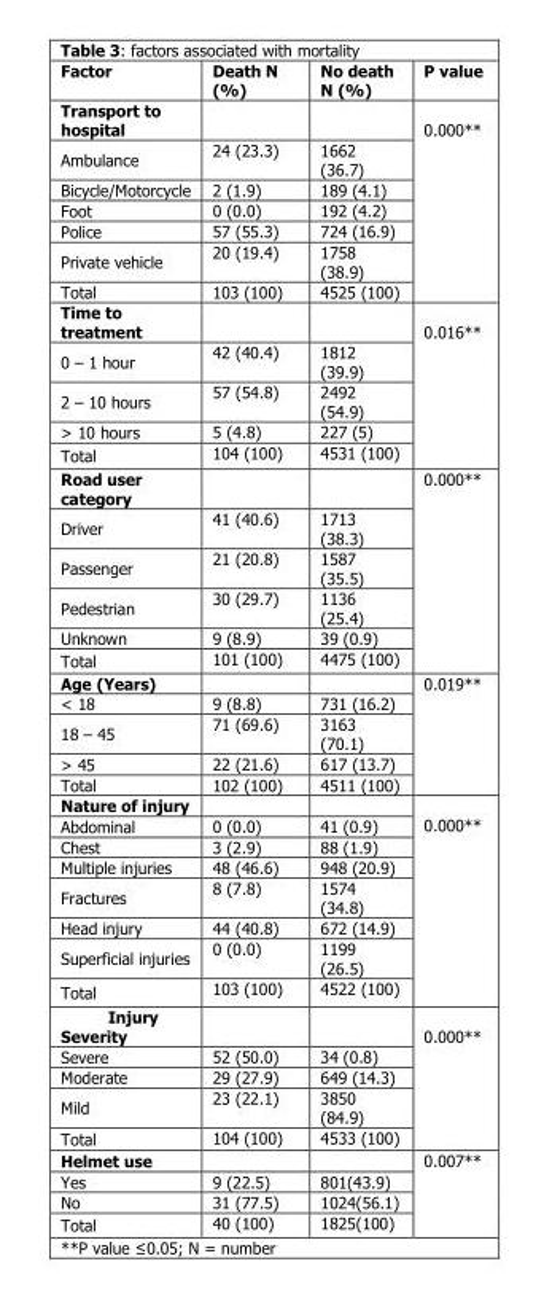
<table><thead><tr><td>Factor</td><td>Death N (%)</td><td>No death N (%)</td><td>P value</td></tr></thead><tbody><tr><td colspan="3">Transport to hospital</td><td rowspan="7">0.000**</td></tr><tr><td>Ambulance</td><td>24 (23.3)</td><td>1662 (36.7)</td></tr><tr><td>Bicycle/Motorcycle</td><td>2 (1.9)</td><td>189 (4.1)</td></tr><tr><td>Foot</td><td>0 (0.0)</td><td>192 (4.2)</td></tr><tr><td>Police</td><td>57 (55.3)</td><td>724 (16.9)</td></tr><tr><td>Private vehicle</td><td>20 (19.4)</td><td>1758 (38.9)</td></tr><tr><td>Total</td><td>103 (100)</td><td>4525 (100)</td></tr><tr><td colspan="3">Time to treatment</td><td rowspan="5">0.016**</td></tr><tr><td>0 – 1 hour</td><td>42 (40.4)</td><td>1812 (39.9)</td></tr><tr><td>2 – 10 hours</td><td>57 (54.8)</td><td>2492 (54.9)</td></tr><tr><td>&gt; 10 hours</td><td>5 (4.8)</td><td>227 (5)</td></tr><tr><td>Total</td><td>104 (100)</td><td>4531 (100)</td></tr><tr><td colspan="3">Road user category</td><td rowspan="6">0.000**</td></tr><tr><td>Driver</td><td>41 (40.6)</td><td>1713 (38.3)</td></tr><tr><td>Passenger</td><td>21 (20.8)</td><td>1587 (35.5)</td></tr><tr><td>Pedestrian</td><td>30 (29.7)</td><td>1136 (25.4)</td></tr><tr><td>Unknown</td><td>9 (8.9)</td><td>39 (0.9)</td></tr><tr><td>Total</td><td>101 (100)</td><td>4475 (100)</td></tr><tr><td colspan="3">Age (Years)</td><td rowspan="5">0.019**</td></tr><tr><td>&lt; 18</td><td>9 (8.8)</td><td>731 (16.2)</td></tr><tr><td>18 – 45</td><td>71 (69.6)</td><td>3163 (70.1)</td></tr><tr><td>&gt; 45</td><td>22 (21.6)</td><td>617 (13.7)</td></tr><tr><td>Total</td><td>102 (100)</td><td>4511 (100)</td></tr><tr><td colspan="3">Nature of injury</td><td rowspan="8">0.000**</td></tr><tr><td>Abdominal</td><td>0 (0.0)</td><td>41 (0.9)</td></tr><tr><td>Chest</td><td>3 (2.9)</td><td>88 (1.9)</td></tr><tr><td>Multiple injuries</td><td>48 (46.6)</td><td>948 (20.9)</td></tr><tr><td>Fractures</td><td>8 (7.8)</td><td>1574 (34.8)</td></tr><tr><td>Head injury</td><td>44 (40.8)</td><td>672 (14.9)</td></tr><tr><td>Superficial injuries</td><td>0 (0.0)</td><td>1199 (26.5)</td></tr><tr><td>Total</td><td>103 (100)</td><td>4522 (100)</td></tr><tr><td colspan="3">Injury Severity</td><td rowspan="5">0.000**</td></tr><tr><td>Severe</td><td>52 (50.0)</td><td>34 (0.8)</td></tr><tr><td>Moderate</td><td>29 (27.9)</td><td>649 (14.3)</td></tr><tr><td>Mild</td><td>23 (22.1)</td><td>3850 (84.9)</td></tr><tr><td>Total</td><td>104 (100)</td><td>4533 (100)</td></tr><tr><td colspan="3">Helmet use</td><td rowspan="4">0.007**</td></tr><tr><td>Yes</td><td>9 (22.5)</td><td>801(43.9)</td></tr><tr><td>No</td><td>31 (77.5)</td><td>1024(56.1)</td></tr><tr><td>Total</td><td>40 (100)</td><td>1825(100)</td></tr></tbody></table>